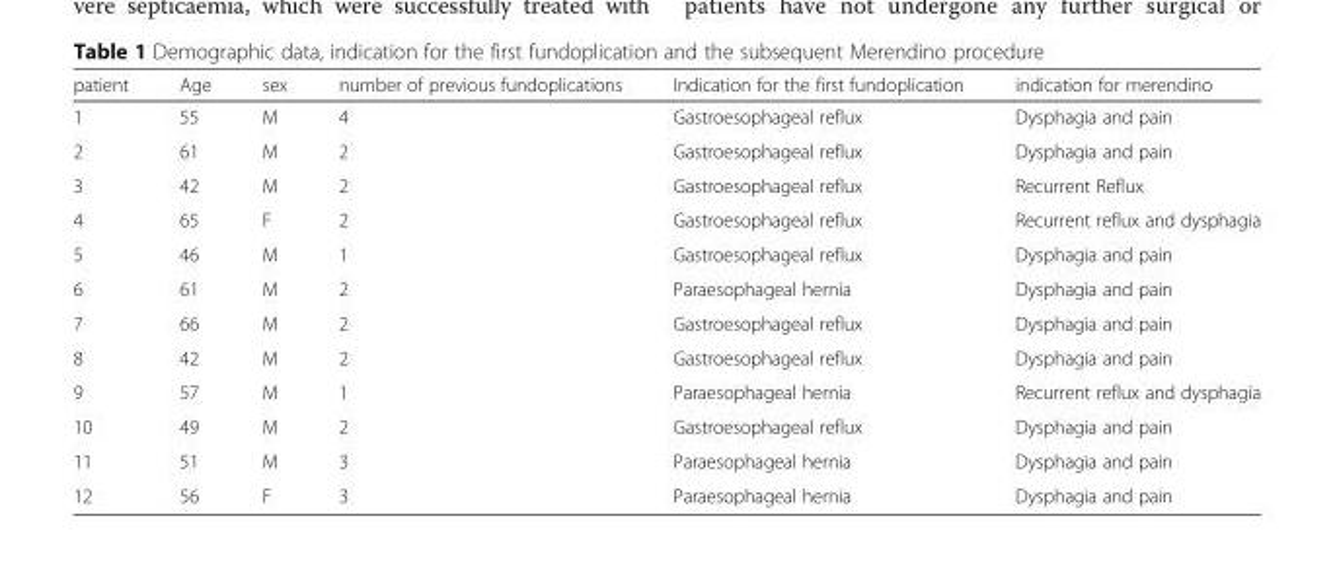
<table><thead><tr><td>patient</td><td>Age</td><td>sex</td><td>number of previous fundoplications</td><td>Indication for the first fundoplication</td><td>indication for merendino</td></tr></thead><tbody><tr><td>1</td><td>55</td><td>M</td><td>4</td><td>Gastroesophageal reflux</td><td>Dysphagia and pain</td></tr><tr><td>2</td><td>61</td><td>M</td><td>2</td><td>Gastroesophageal reflux</td><td>Dysphagia and pain</td></tr><tr><td>3</td><td>42</td><td>M</td><td>2</td><td>Gastroesophageal reflux</td><td>Recurrent Reflux</td></tr><tr><td>4</td><td>65</td><td>F</td><td>2</td><td>Gastroesophageal reflux</td><td>Recurrent reflux and dysphagia</td></tr><tr><td>5</td><td>46</td><td>M</td><td>1</td><td>Gastroesophageal reflux</td><td>Dysphagia and pain</td></tr><tr><td>6</td><td>61</td><td>M</td><td>2</td><td>Paraesophageal hernia</td><td>Dysphagia and pain</td></tr><tr><td>7</td><td>66</td><td>M</td><td>2</td><td>Gastroesophageal reflux</td><td>Dysphagia and pain</td></tr><tr><td>8</td><td>42</td><td>M</td><td>2</td><td>Gastroesophageal reflux</td><td>Dysphagia and pain</td></tr><tr><td>9</td><td>57</td><td>M</td><td>1</td><td>Paraesophageal hernia</td><td>Recurrent reflux and dysphagia</td></tr><tr><td>10</td><td>49</td><td>M</td><td>2</td><td>Gastroesophageal reflux</td><td>Dysphagia and pain</td></tr><tr><td>11</td><td>51</td><td>M</td><td>3</td><td>Paraesophageal hernia</td><td>Dysphagia and pain</td></tr><tr><td>12</td><td>56</td><td>F</td><td>3</td><td>Paraesophageal hernia</td><td>Dysphagia and pain</td></tr></tbody></table>